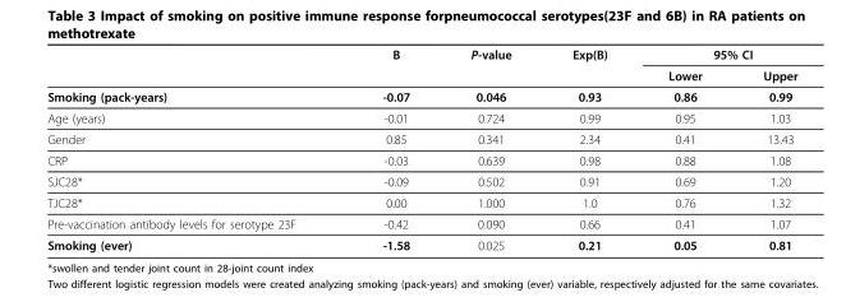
<table><thead><tr><td rowspan="2"></td><td rowspan="2">B</td><td rowspan="2">P-value</td><td rowspan="2">Exp(B)</td><td colspan="2">95% CI</td></tr><tr><td>Lower</td><td>Upper</td></tr></thead><tbody><tr><td>Smoking (pack-years)</td><td>-0.07</td><td>0.046</td><td>0.93</td><td>0.86</td><td>0.99</td></tr><tr><td>Age (years)</td><td>-0.01</td><td>0.724</td><td>0.99</td><td>0.95</td><td>1.03</td></tr><tr><td>Gender</td><td>0.85</td><td>0.341</td><td>2.34</td><td>0.41</td><td>13.43</td></tr><tr><td>CRP</td><td>-0.03</td><td>0.639</td><td>0.98</td><td>0.88</td><td>1.08</td></tr><tr><td>SJC28*</td><td>-0.09</td><td>0.502</td><td>0.91</td><td>0.69</td><td>1.20</td></tr><tr><td>TJC28*</td><td>0.00</td><td>1.000</td><td>1.0</td><td>0.76</td><td>1.32</td></tr><tr><td>Pre-vaccination antibody levels for serotype 23F</td><td>-0.42</td><td>0.090</td><td>0.66</td><td>0.41</td><td>1.07</td></tr><tr><td>Smoking (ever)</td><td>-1.58</td><td>0.025</td><td>0.21</td><td>0.05</td><td>0.81</td></tr></tbody></table>